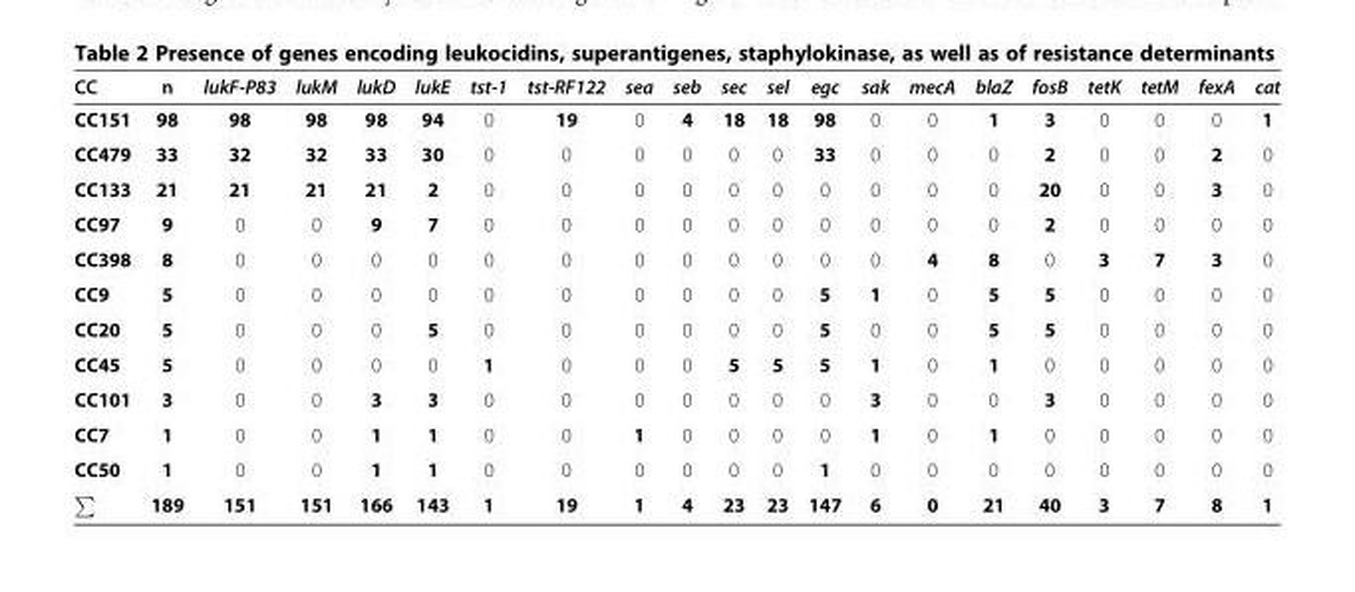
<table><thead><tr><td>CC</td><td>n</td><td>lukF-P83</td><td>lukM</td><td>lukD</td><td>lukE</td><td>tst-1</td><td>tst-RF122</td><td>sea</td><td>seb</td><td>sec</td><td>sel</td><td>egc</td><td>sak</td><td>mecA</td><td>blaZ</td><td>fosB</td><td>tetK</td><td>tetM</td><td>fexA</td><td>cat</td></tr></thead><tbody><tr><td>CC151</td><td>98</td><td>98</td><td>98</td><td>98</td><td>94</td><td>0</td><td>19</td><td>0</td><td>4</td><td>18</td><td>18</td><td>98</td><td>0</td><td>0</td><td>1</td><td>3</td><td>0</td><td>0</td><td>0</td><td>1</td></tr><tr><td>CC479</td><td>33</td><td>32</td><td>32</td><td>33</td><td>30</td><td>0</td><td>0</td><td>0</td><td>0</td><td>0</td><td>0</td><td>33</td><td>0</td><td>0</td><td>0</td><td>2</td><td>0</td><td>0</td><td>2</td><td>0</td></tr><tr><td>CC133</td><td>21</td><td>21</td><td>21</td><td>21</td><td>2</td><td>0</td><td>0</td><td>0</td><td>0</td><td>0</td><td>0</td><td>0</td><td>0</td><td>0</td><td>0</td><td>20</td><td>0</td><td>0</td><td>3</td><td>0</td></tr><tr><td>CC97</td><td>9</td><td>0</td><td>0</td><td>9</td><td>7</td><td>0</td><td>0</td><td>0</td><td>0</td><td>0</td><td>0</td><td>0</td><td>0</td><td>0</td><td>0</td><td>2</td><td>0</td><td>0</td><td>0</td><td>0</td></tr><tr><td>CC398</td><td>8</td><td>0</td><td>0</td><td>0</td><td>0</td><td>0</td><td>0</td><td>0</td><td>0</td><td>0</td><td>0</td><td>0</td><td>0</td><td>4</td><td>8</td><td>0</td><td>3</td><td>7</td><td>3</td><td>0</td></tr><tr><td>CC9</td><td>5</td><td>0</td><td>0</td><td>0</td><td>0</td><td>0</td><td>0</td><td>0</td><td>0</td><td>0</td><td>0</td><td>5</td><td>1</td><td>0</td><td>5</td><td>5</td><td>0</td><td>0</td><td>0</td><td>0</td></tr><tr><td>CC20</td><td>5</td><td>0</td><td>0</td><td>0</td><td>5</td><td>0</td><td>0</td><td>0</td><td>0</td><td>0</td><td>0</td><td>5</td><td>0</td><td>0</td><td>5</td><td>5</td><td>0</td><td>0</td><td>0</td><td>0</td></tr><tr><td>CC45</td><td>5</td><td>0</td><td>0</td><td>0</td><td>0</td><td>1</td><td>0</td><td>0</td><td>0</td><td>5</td><td>5</td><td>5</td><td>1</td><td>0</td><td>1</td><td>0</td><td>0</td><td>0</td><td>0</td><td>0</td></tr><tr><td>CC101</td><td>3</td><td>0</td><td>0</td><td>3</td><td>3</td><td>0</td><td>0</td><td>0</td><td>0</td><td>0</td><td>0</td><td>0</td><td>3</td><td>0</td><td>0</td><td>3</td><td>0</td><td>0</td><td>0</td><td>0</td></tr><tr><td>CC7</td><td>1</td><td>0</td><td>0</td><td>1</td><td>1</td><td>0</td><td>0</td><td>1</td><td>0</td><td>0</td><td>0</td><td>0</td><td>1</td><td>0</td><td>1</td><td>0</td><td>0</td><td>0</td><td>0</td><td>0</td></tr><tr><td>CC50</td><td>1</td><td>0</td><td>0</td><td>1</td><td>1</td><td>0</td><td>0</td><td>0</td><td>0</td><td>0</td><td>0</td><td>1</td><td>0</td><td>0</td><td>0</td><td>0</td><td>0</td><td>0</td><td>0</td><td>0</td></tr><tr><td></td><td>189</td><td>151</td><td>151</td><td>166</td><td>143</td><td>1</td><td>19</td><td>1</td><td>4</td><td>23</td><td>23</td><td>147</td><td>6</td><td>0</td><td>21</td><td>40</td><td>3</td><td>7</td><td>8</td><td>1</td></tr></tbody></table>